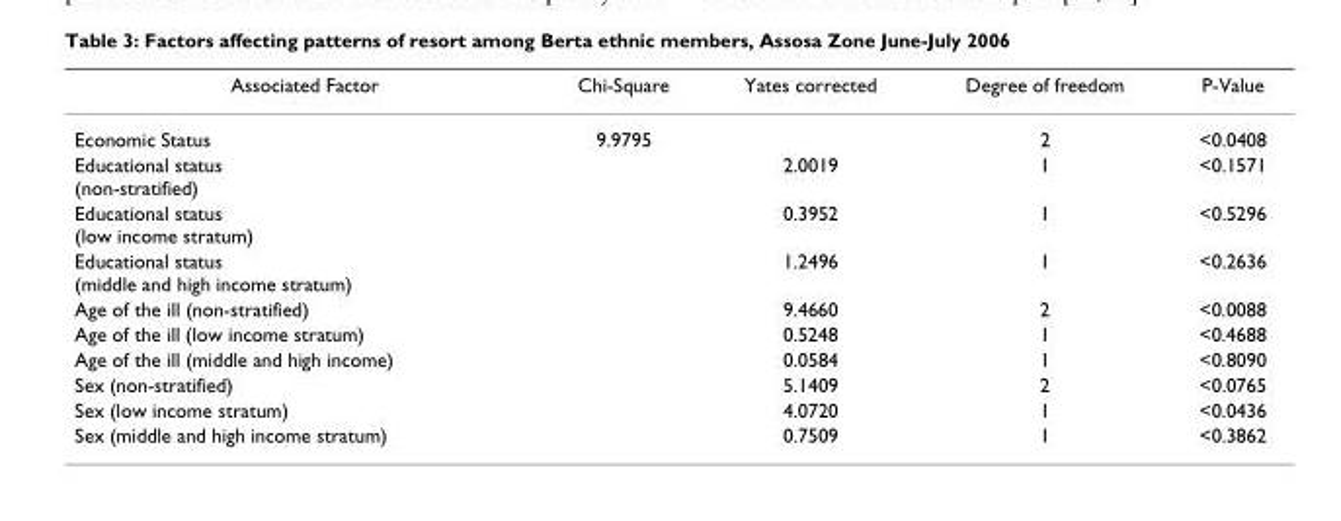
<table><thead><tr><td>Associated Factor</td><td>Chi-Square</td><td>Yates corrected</td><td>Degree of freedom</td><td>P-Value</td></tr></thead><tbody><tr><td>Economic Status</td><td>9.9795</td><td></td><td>2</td><td>&lt;0.0408</td></tr><tr><td>Educational status (non-stratified)</td><td></td><td>2.0019</td><td>1</td><td>&lt;0.1571</td></tr><tr><td>Educational status (low income stratum)</td><td></td><td>0.3952</td><td>1</td><td>&lt;0.5296</td></tr><tr><td>Educational status (middle and high income stratum)</td><td></td><td>1.2496</td><td>1</td><td>&lt;0.2636</td></tr><tr><td>Age of the ill (non-stratified)</td><td></td><td>9.4660</td><td>2</td><td>&lt;0.0088</td></tr><tr><td>Age of the ill (low income stratum)</td><td></td><td>0.5248</td><td>1</td><td>&lt;0.4688</td></tr><tr><td>Age of the ill (middle and high income)</td><td></td><td>0.0584</td><td>1</td><td>&lt;0.8090</td></tr><tr><td>Sex (non-stratified)</td><td></td><td>5.1409</td><td>2</td><td>&lt;0.0765</td></tr><tr><td>Sex (low income stratum)</td><td></td><td>4.0720</td><td>1</td><td>&lt;0.0436</td></tr><tr><td>Sex (middle and high income stratum)</td><td></td><td>0.7509</td><td>1</td><td>&lt;0.3862</td></tr></tbody></table>